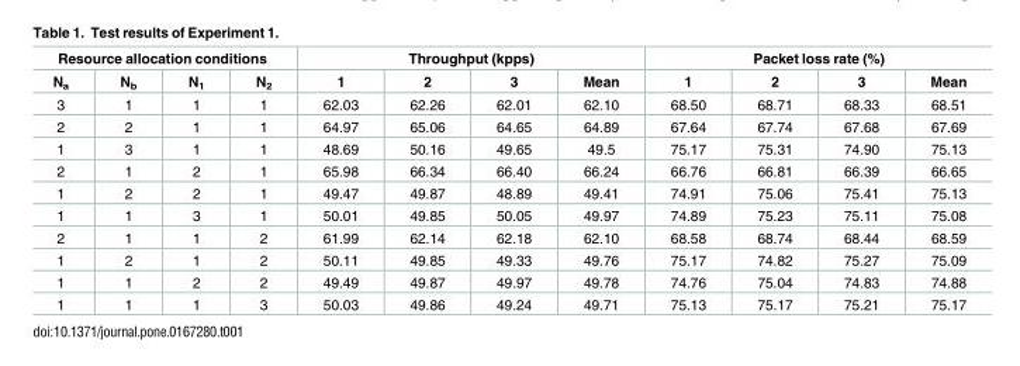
<table><thead><tr><td colspan="4">Resource allocation conditions</td><td colspan="4">Throughput (kpps)</td><td colspan="4">Packet loss rate (%)</td></tr><tr><td>N<sub>a</sub></td><td>N<sub>b</sub></td><td>N<sub>1</sub></td><td>N<sub>2</sub></td><td>1</td><td>2</td><td>3</td><td>Mean</td><td>1</td><td>2</td><td>3</td><td>Mean</td></tr></thead><tbody><tr><td>3</td><td>1</td><td>1</td><td>1</td><td>62.03</td><td>62.26</td><td>62.01</td><td>62.10</td><td>68.50</td><td>68.71</td><td>68.33</td><td>68.51</td></tr><tr><td>2</td><td>2</td><td>1</td><td>1</td><td>64.97</td><td>65.06</td><td>64.65</td><td>64.89</td><td>67.64</td><td>67.74</td><td>67.68</td><td>67.69</td></tr><tr><td>1</td><td>3</td><td>1</td><td>1</td><td>48.69</td><td>50.16</td><td>49.65</td><td>49.5</td><td>75.17</td><td>75.31</td><td>74.90</td><td>75.13</td></tr><tr><td>2</td><td>1</td><td>2</td><td>1</td><td>65.98</td><td>66.34</td><td>66.40</td><td>66.24</td><td>66.76</td><td>66.81</td><td>66.39</td><td>66.65</td></tr><tr><td>1</td><td>2</td><td>2</td><td>1</td><td>49.47</td><td>49.87</td><td>48.89</td><td>49.41</td><td>74.91</td><td>75.06</td><td>75.41</td><td>75.13</td></tr><tr><td>1</td><td>1</td><td>3</td><td>1</td><td>50.01</td><td>49.85</td><td>50.05</td><td>49.97</td><td>74.89</td><td>75.23</td><td>75.11</td><td>75.08</td></tr><tr><td>2</td><td>1</td><td>1</td><td>2</td><td>61.99</td><td>62.14</td><td>62.18</td><td>62.10</td><td>68.58</td><td>68.74</td><td>68.44</td><td>68.59</td></tr><tr><td>1</td><td>2</td><td>1</td><td>2</td><td>50.11</td><td>49.85</td><td>49.33</td><td>49.76</td><td>75.17</td><td>74.82</td><td>75.27</td><td>75.09</td></tr><tr><td>1</td><td>1</td><td>2</td><td>2</td><td>49.49</td><td>49.87</td><td>49.97</td><td>49.78</td><td>74.76</td><td>75.04</td><td>74.83</td><td>74.88</td></tr><tr><td>1</td><td>1</td><td>1</td><td>3</td><td>50.03</td><td>49.86</td><td>49.24</td><td>49.71</td><td>75.13</td><td>75.17</td><td>75.21</td><td>75.17</td></tr></tbody></table>